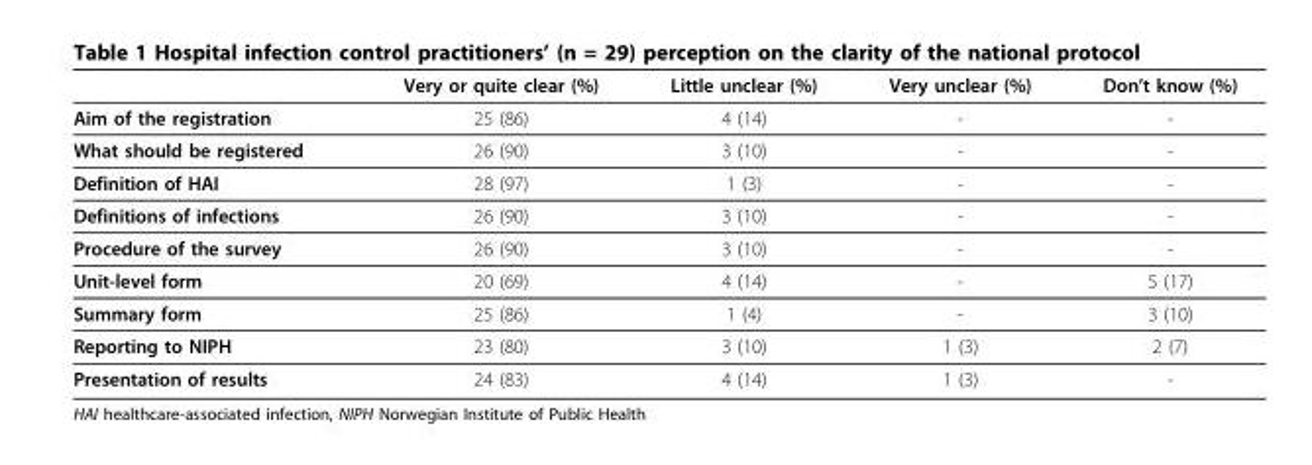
<table><thead><tr><td></td><td>Very or quite clear (%)</td><td>Little unclear (%)</td><td>Very unclear (%)</td><td>Don’t know (%)</td></tr></thead><tbody><tr><td>Aim of the registration</td><td>25 (86)</td><td>4 (14)</td><td>-</td><td>-</td></tr><tr><td>What should be registered</td><td>26 (90)</td><td>3 (10)</td><td>-</td><td>-</td></tr><tr><td>Definition of HAI</td><td>28 (97)</td><td>1 (3)</td><td>-</td><td>-</td></tr><tr><td>Definitions of infections</td><td>26 (90)</td><td>3 (10)</td><td>-</td><td>-</td></tr><tr><td>Procedure of the survey</td><td>26 (90)</td><td>3 (10)</td><td>-</td><td>-</td></tr><tr><td>Unit-level form</td><td>20 (69)</td><td>4 (14)</td><td>-</td><td>5 (17)</td></tr><tr><td>Summary form</td><td>25 (86)</td><td>1 (4)</td><td>-</td><td>3 (10)</td></tr><tr><td>Reporting to NIPH</td><td>23 (80)</td><td>3 (10)</td><td>1 (3)</td><td>2 (7)</td></tr><tr><td>Presentation of results</td><td>24 (83)</td><td>4 (14)</td><td>1 (3)</td><td>-</td></tr></tbody></table>